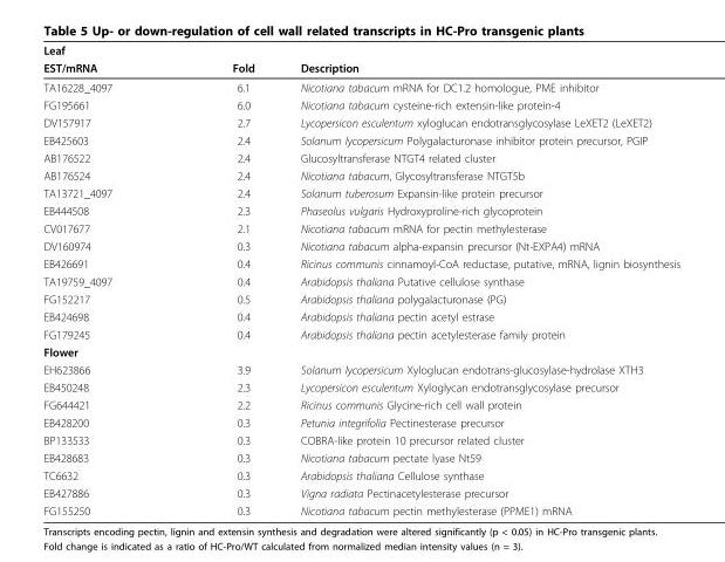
<table><thead><tr><td rowspan="2">Leaf EST/mRNA</td><td rowspan="2">Fold</td><td rowspan="2">Description</td></tr><tr></tr></thead><tbody><tr><td>TA16228_4097</td><td>6.1</td><td>Nicotiana tabacum mRNA for DC1.2 homologue, PME inhibitor</td></tr><tr><td>FG195661</td><td>6.0</td><td>Nicotiana tabacum cysteine-rich extensin-like protein-4</td></tr><tr><td>DV157917</td><td>2.7</td><td>Lycopersicon esculentum xyloglucan endotransglycosylase LeXET2 (LeXET2)</td></tr><tr><td>EB425603</td><td>2.4</td><td>Solanum lycopersicum Polygalacturonase inhibitor protein precursor, PGIP</td></tr><tr><td>AB176522</td><td>2.4</td><td>Glucosyltransferase NTGT4 related cluster</td></tr><tr><td>AB176524</td><td>2.4</td><td>Nicotiana tabacum, Glycosyltransferase NTGT5b</td></tr><tr><td>TA13721_4097</td><td>2.4</td><td>Solanum tuberosum Expansin-like protein precursor</td></tr><tr><td>EB444508</td><td>2.3</td><td>Phaseolus vulgaris Hydroxyproline-rich glycoprotein</td></tr><tr><td>CV017677</td><td>2.1</td><td>Nicotiana tabacum mRNA for pectin methylesterase</td></tr><tr><td>DV160974</td><td>0.3</td><td>Nicotiana tabacum alpha-expansin precursor (Nt-EXPA4) mRNA</td></tr><tr><td>EB426691</td><td>0.4</td><td>Ricinus communis cinnamoyl-CoA reductase, putative, mRNA, lignin biosynthesis</td></tr><tr><td>TA19759_4097</td><td>0.4</td><td>Arabidopsis thaliana Putative cellulose synthase</td></tr><tr><td>FG152217</td><td>0.5</td><td>Arabidopsis thaliana polygalacturonase (PG)</td></tr><tr><td>EB424698</td><td>0.4</td><td>Arabidopsis thaliana pectin acetyl estrase</td></tr><tr><td>FG179245</td><td>0.4</td><td>Arabidopsis thaliana pectin acetylesterase family protein</td></tr><tr><td colspan="3">Flower</td></tr><tr><td>EH623866</td><td>3.9</td><td>Solanum lycopersicum Xyloglucan endotrans-glucosylase-hydrolase XTH3</td></tr><tr><td>EB450248</td><td>2.3</td><td>Lycopersicon esculentum Xyloglycan endotransglycosylase precursor</td></tr><tr><td>FG644421</td><td>2.2</td><td>Ricinus communis Glycine-rich cell wall protein</td></tr><tr><td>EB428200</td><td>0.3</td><td>Petunia integrifolia Pectinesterase precursor</td></tr><tr><td>BP133533</td><td>0.3</td><td>COBRA-like protein 10 precursor related cluster</td></tr><tr><td>EB428683</td><td>0.3</td><td>Nicotiana tabacum pectate lyase Nt59</td></tr><tr><td>TC6632</td><td>0.3</td><td>Arabidopsis thaliana Cellulose synthase</td></tr><tr><td>EB427886</td><td>0.3</td><td>Vigna radiata Pectinacetylesterase precursor</td></tr><tr><td>FG155250</td><td>0.3</td><td>Nicotiana tabacum pectin methylesterase (PPME1) mRNA</td></tr></tbody></table>